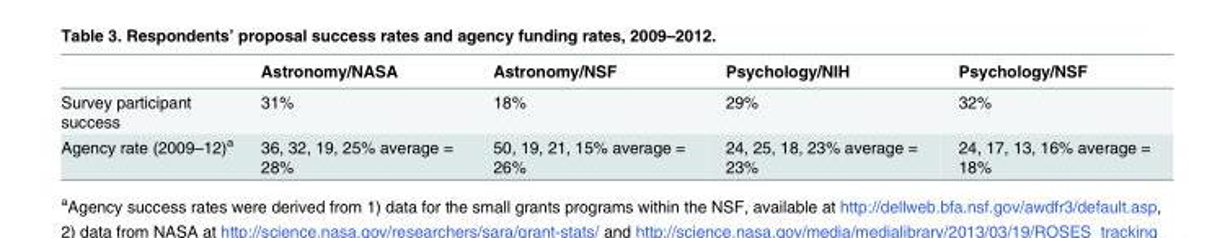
<table><thead><tr><td></td><td>Astronomy/NASA</td><td>Astronomy/NSF</td><td>Psychology/NIH</td><td>Psychology/NSF</td></tr></thead><tbody><tr><td>Survey participant success</td><td>31%</td><td>18%</td><td>29%</td><td>32%</td></tr><tr><td>Agency rate (2009–12)<sup>a</sup></td><td>36, 32, 19, 25% average = 28%</td><td>50, 19, 21, 15% average = 26%</td><td>24, 25, 18, 23% average = 23%</td><td>24, 17, 13, 16% average = 18%</td></tr></tbody></table>